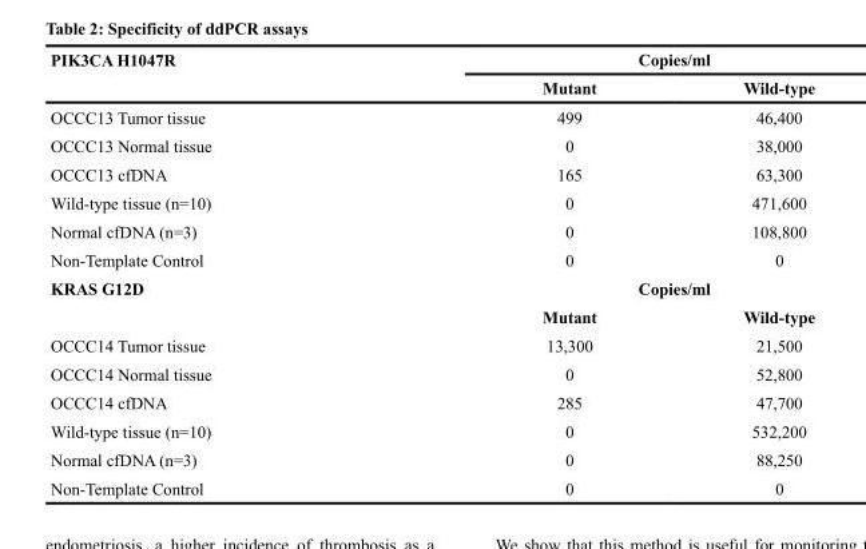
<table><thead><tr><td rowspan="2">PIK3CA H1047R</td><td colspan="2">Copies/ml</td></tr><tr><td>Mutant</td><td>Wild-type</td></tr></thead><tbody><tr><td>OCCC13 Tumor tissue</td><td>499</td><td>46,400</td></tr><tr><td>OCCC13 Normal tissue</td><td>0</td><td>38,000</td></tr><tr><td>OCCC13 cfDNA</td><td>165</td><td>63,300</td></tr><tr><td>Wild-type tissue (n=10)</td><td>0</td><td>471,600</td></tr><tr><td>Normal cfDNA (n=3)</td><td>0</td><td>108,800</td></tr><tr><td>Non-Template Control</td><td>0</td><td>0</td></tr><tr><td rowspan="2">KRAS G12D</td><td colspan="2">Copies/ml</td></tr><tr><td>Mutant</td><td>Wild-type</td></tr><tr><td>OCCC14 Tumor tissue</td><td>13,300</td><td>21,500</td></tr><tr><td>OCCC14 Normal tissue</td><td>0</td><td>52,800</td></tr><tr><td>OCCC14 cfDNA</td><td>285</td><td>47,700</td></tr><tr><td>Wild-type tissue (n=10)</td><td>0</td><td>532,200</td></tr><tr><td>Normal cfDNA (n=3)</td><td>0</td><td>88,250</td></tr><tr><td>Non-Template Control</td><td>0</td><td>0</td></tr></tbody></table>